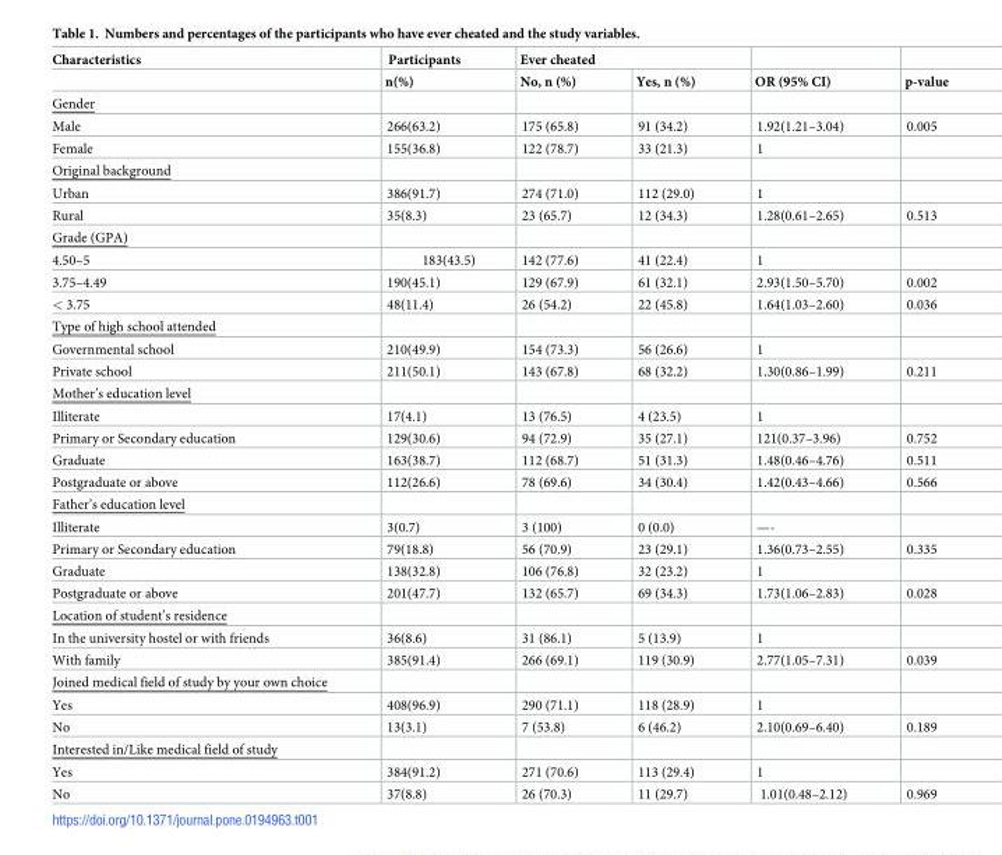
<table><thead><tr><td rowspan="2">Characteristics</td><td rowspan="2">Participants n(%)</td><td colspan="2">Ever cheated</td><td rowspan="2">OR (95% CI)</td><td rowspan="2">p-value</td></tr><tr><td>No, n (%)</td><td>Yes, n (%)</td></tr></thead><tbody><tr><td colspan="6">Gender</td></tr><tr><td>Male</td><td>266(63.2)</td><td>175 (65.8)</td><td>91 (34.2)</td><td>1.92(1.21–3.04)</td><td>0.005</td></tr><tr><td>Female</td><td>155(36.8)</td><td>122 (78.7)</td><td>33 (21.3)</td><td>1</td><td></td></tr><tr><td colspan="6">Original background</td></tr><tr><td>Urban</td><td>386(91.7)</td><td>274 (71.0)</td><td>112 (29.0)</td><td>1</td><td></td></tr><tr><td>Rural</td><td>35(8.3)</td><td>23 (65.7)</td><td>12 (34.3)</td><td>1.28(0.61–2.65)</td><td>0.513</td></tr><tr><td colspan="6">Grade (GPA)</td></tr><tr><td>4.50–5</td><td>183(43.5)</td><td>142 (77.6)</td><td>41 (22.4)</td><td>1</td><td></td></tr><tr><td>3.75–4.49</td><td>190(45.1)</td><td>129 (67.9)</td><td>61 (32.1)</td><td>2.93(1.50–5.70)</td><td>0.002</td></tr><tr><td>&lt; 3.75</td><td>48(11.4)</td><td>26 (54.2)</td><td>22 (45.8)</td><td>1.64(1.03–2.60)</td><td>0.036</td></tr><tr><td colspan="6">Type of high school attended</td></tr><tr><td>Governmental school</td><td>210(49.9)</td><td>154 (73.3)</td><td>56 (26.6)</td><td>1</td><td></td></tr><tr><td>Private school</td><td>211(50.1)</td><td>143 (67.8)</td><td>68 (32.2)</td><td>1.30(0.86–1.99)</td><td>0.211</td></tr><tr><td colspan="6">Mother’s education level</td></tr><tr><td>Illiterate</td><td>17(4.1)</td><td>13 (76.5)</td><td>4 (23.5)</td><td>1</td><td></td></tr><tr><td>Primary or Secondary education</td><td>129(30.6)</td><td>94 (72.9)</td><td>35 (27.1)</td><td>121(0.37–3.96)</td><td>0.752</td></tr><tr><td>Graduate</td><td>163(38.7)</td><td>112 (68.7)</td><td>51 (31.3)</td><td>1.48(0.46–4.76)</td><td>0.511</td></tr><tr><td>Postgraduate or above</td><td>112(26.6)</td><td>78 (69.6)</td><td>34 (30.4)</td><td>1.42(0.43–4.66)</td><td>0.566</td></tr><tr><td colspan="6">Father’s education level</td></tr><tr><td>Illiterate</td><td>3(0.7)</td><td>3 (100)</td><td>0 (0.0)</td><td>—-</td><td></td></tr><tr><td>Primary or Secondary education</td><td>79(18.8)</td><td>56 (70.9)</td><td>23 (29.1)</td><td>1.36(0.73–2.55)</td><td>0.335</td></tr><tr><td>Graduate</td><td>138(32.8)</td><td>106 (76.8)</td><td>32 (23.2)</td><td>1</td><td></td></tr><tr><td>Postgraduate or above</td><td>201(47.7)</td><td>132 (65.7)</td><td>69 (34.3)</td><td>1.73(1.06–2.83)</td><td>0.028</td></tr><tr><td colspan="6">Location of student’s residence</td></tr><tr><td>In the university hostel or with friends</td><td>36(8.6)</td><td>31 (86.1)</td><td>5 (13.9)</td><td>1</td><td></td></tr><tr><td>With family</td><td>385(91.4)</td><td>266 (69.1)</td><td>119 (30.9)</td><td>2.77(1.05–7.31)</td><td>0.039</td></tr><tr><td colspan="6">Joined medical field of study by your own choice</td></tr><tr><td>Yes</td><td>408(96.9)</td><td>290 (71.1)</td><td>118 (28.9)</td><td>1</td><td></td></tr><tr><td>No</td><td>13(3.1)</td><td>7 (53.8)</td><td>6 (46.2)</td><td>2.10(0.69–6.40)</td><td>0.189</td></tr><tr><td colspan="6">Interested in/Like medical field of study</td></tr><tr><td>Yes</td><td>384(91.2)</td><td>271 (70.6)</td><td>113 (29.4)</td><td>1</td><td></td></tr><tr><td>No</td><td>37(8.8)</td><td>26 (70.3)</td><td>11 (29.7)</td><td>1.01(0.48–2.12)</td><td>0.969</td></tr></tbody></table>